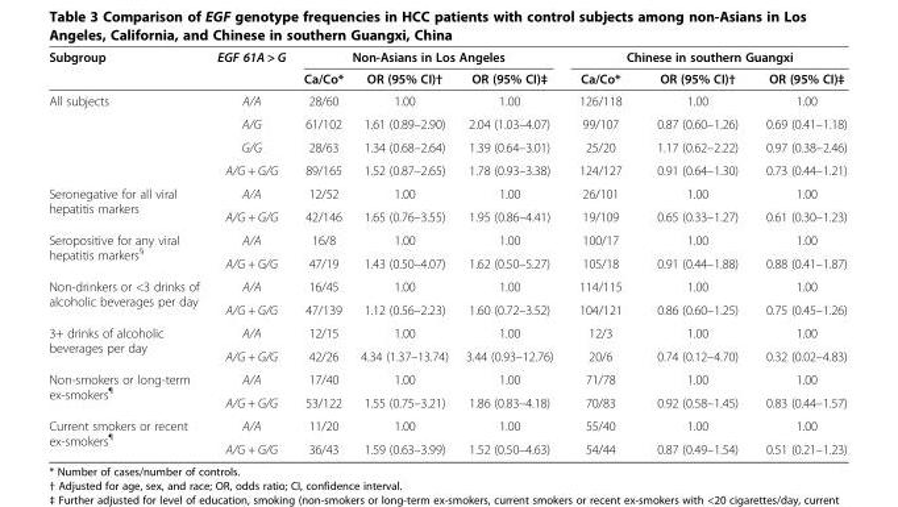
<table><thead><tr><td rowspan="2">Subgroup</td><td rowspan="2">EGF 61A &gt; G</td><td colspan="3">Non-Asians in Los Angeles</td><td colspan="3">Chinese in southern Guangxi</td></tr><tr><td>Ca/Co*</td><td>OR (95% CI)†</td><td>OR (95% CI)‡</td><td>Ca/Co*</td><td>OR (95% CI)†</td><td>OR (95% CI)‡</td></tr></thead><tbody><tr><td rowspan="4">All subjects</td><td>A/A</td><td>28/60</td><td>1.00</td><td>1.00</td><td>126/118</td><td>1.00</td><td>1.00</td></tr><tr><td>A/G</td><td>61/102</td><td>1.61 (0.89–2.90)</td><td>2.04 (1.03–4.07)</td><td>99/107</td><td>0.87 (0.60–1.26)</td><td>0.69 (0.41–1.18)</td></tr><tr><td>G/G</td><td>28/63</td><td>1.34 (0.68–2.64)</td><td>1.39 (0.64–3.01)</td><td>25/20</td><td>1.17 (0.62–2.22)</td><td>0.97 (0.38–2.46)</td></tr><tr><td>A/G + G/G</td><td>89/165</td><td>1.52 (0.87–2.65)</td><td>1.78 (0.93–3.38)</td><td>124/127</td><td>0.91 (0.64–1.30)</td><td>0.73 (0.44–1.21)</td></tr><tr><td rowspan="2">Seronegative for all viral hepatitis markers</td><td>A/A</td><td>12/52</td><td>1.00</td><td>1.00</td><td>26/101</td><td>1.00</td><td>1.00</td></tr><tr><td>A/G + G/G</td><td>42/146</td><td>1.65 (0.76–3.55)</td><td>1.95 (0.86–4.41)</td><td>19/109</td><td>0.65 (0.33–1.27)</td><td>0.61 (0.30–1.23)</td></tr><tr><td rowspan="2">Seropositive for any viral hepatitis markers<sup>§</sup></td><td>A/A</td><td>16/8</td><td>1.00</td><td>1.00</td><td>100/17</td><td>1.00</td><td>1.00</td></tr><tr><td>A/G + G/G</td><td>47/19</td><td>1.43 (0.50–4.07)</td><td>1.62 (0.50–5.27)</td><td>105/18</td><td>0.91 (0.44–1.88)</td><td>0.88 (0.41–1.87)</td></tr><tr><td rowspan="2">Non-drinkers or &lt;3 drinks of alcoholic beverages per day</td><td>A/A</td><td>16/45</td><td>1.00</td><td>1.00</td><td>114/115</td><td>1.00</td><td>1.00</td></tr><tr><td>A/G + G/G</td><td>47/139</td><td>1.12 (0.56–2.23)</td><td>1.60 (0.72–3.52)</td><td>104/121</td><td>0.86 (0.60–1.25)</td><td>0.75 (0.45–1.26)</td></tr><tr><td rowspan="2">3+ drinks of alcoholic beverages per day</td><td>A/A</td><td>12/15</td><td>1.00</td><td>1.00</td><td>12/3</td><td>1.00</td><td>1.00</td></tr><tr><td>A/G + G/G</td><td>42/26</td><td>4.34 (1.37–13.74)</td><td>3.44 (0.93–12.76)</td><td>20/6</td><td>0.74 (0.12–4.70)</td><td>0.32 (0.02–4.83)</td></tr><tr><td rowspan="2">Non-smokers or long-term ex-smokers<sup>¶</sup></td><td>A/A</td><td>17/40</td><td>1.00</td><td>1.00</td><td>71/78</td><td>1.00</td><td>1.00</td></tr><tr><td>A/G + G/G</td><td>53/122</td><td>1.55 (0.75–3.21)</td><td>1.86 (0.83–4.18)</td><td>70/83</td><td>0.92 (0.58–1.45)</td><td>0.83 (0.44–1.57)</td></tr><tr><td rowspan="2">Current smokers or recent ex-smokers<sup>¶</sup></td><td>A/A</td><td>11/20</td><td>1.00</td><td>1.00</td><td>55/40</td><td>1.00</td><td>1.00</td></tr><tr><td>A/G + G/G</td><td>36/43</td><td>1.59 (0.63–3.99)</td><td>1.52 (0.50–4.63)</td><td>54/44</td><td>0.87 (0.49–1.54)</td><td>0.51 (0.21–1.23)</td></tr></tbody></table>